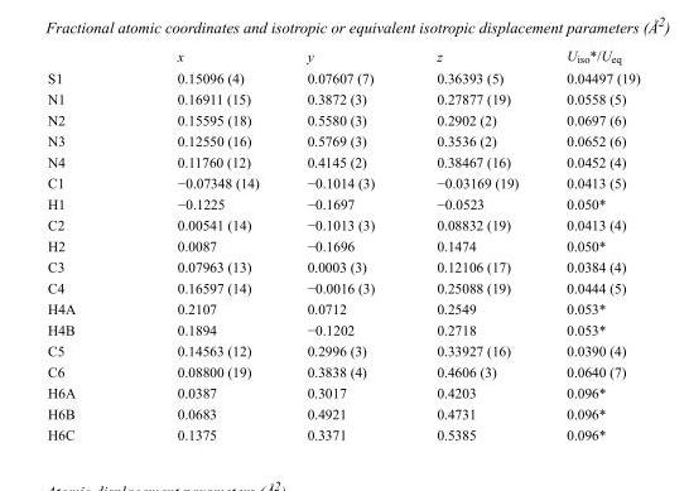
<table><thead><tr><td></td><td>x</td><td>y</td><td>z</td><td>U<sub>iso</sub>*/U<sub>eq</sub></td></tr></thead><tbody><tr><td>S1</td><td>0.15096 (4)</td><td>0.07607 (7)</td><td>0.36393 (5)</td><td>0.04497 (19)</td></tr><tr><td>N1</td><td>0.16911 (15)</td><td>0.3872 (3)</td><td>0.27877 (19)</td><td>0.0558 (5)</td></tr><tr><td>N2</td><td>0.15595 (18)</td><td>0.5580 (3)</td><td>0.2902 (2)</td><td>0.0697 (6)</td></tr><tr><td>N3</td><td>0.12550 (16)</td><td>0.5769 (3)</td><td>0.3536 (2)</td><td>0.0652 (6)</td></tr><tr><td>N4</td><td>0.11760 (12)</td><td>0.4145 (2)</td><td>0.38467 (16)</td><td>0.0452 (4)</td></tr><tr><td>C1</td><td>−0.07348 (14)</td><td>−0.1014 (3)</td><td>−0.03169 (19)</td><td>0.0413 (5)</td></tr><tr><td>H1</td><td>−0.1225</td><td>−0.1697</td><td>−0.0523</td><td>0.050*</td></tr><tr><td>C2</td><td>0.00541 (14)</td><td>−0.1013 (3)</td><td>0.08832 (19)</td><td>0.0413 (4)</td></tr><tr><td>H2</td><td>0.0087</td><td>−0.1696</td><td>0.1474</td><td>0.050*</td></tr><tr><td>C3</td><td>0.07963 (13)</td><td>0.0003 (3)</td><td>0.12106 (17)</td><td>0.0384 (4)</td></tr><tr><td>C4</td><td>0.16597 (14)</td><td>−0.0016 (3)</td><td>0.25088 (19)</td><td>0.0444 (5)</td></tr><tr><td>H4A</td><td>0.2107</td><td>0.0712</td><td>0.2549</td><td>0.053*</td></tr><tr><td>H4B</td><td>0.1894</td><td>−0.1202</td><td>0.2718</td><td>0.053*</td></tr><tr><td>C5</td><td>0.14563 (12)</td><td>0.2996 (3)</td><td>0.33927 (16)</td><td>0.0390 (4)</td></tr><tr><td>C6</td><td>0.08800 (19)</td><td>0.3838 (4)</td><td>0.4606 (3)</td><td>0.0640 (7)</td></tr><tr><td>H6A</td><td>0.0387</td><td>0.3017</td><td>0.4203</td><td>0.096*</td></tr><tr><td>H6B</td><td>0.0683</td><td>0.4921</td><td>0.4731</td><td>0.096*</td></tr><tr><td>H6C</td><td>0.1375</td><td>0.3371</td><td>0.5385</td><td>0.096*</td></tr></tbody></table>